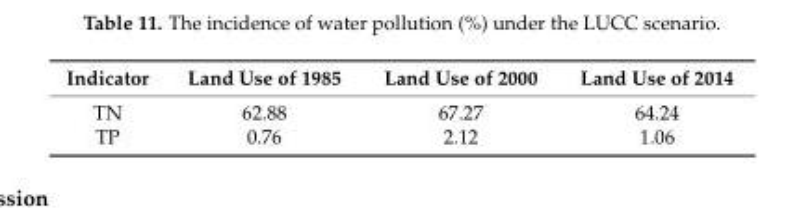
<table><thead><tr><td>Indicator</td><td>Land Use of 1985</td><td>Land Use of 2000</td><td>Land Use of 2014</td></tr></thead><tbody><tr><td>TN</td><td>62.88</td><td>67.27</td><td>64.24</td></tr><tr><td>TP</td><td>0.76</td><td>2.12</td><td>1.06</td></tr></tbody></table>